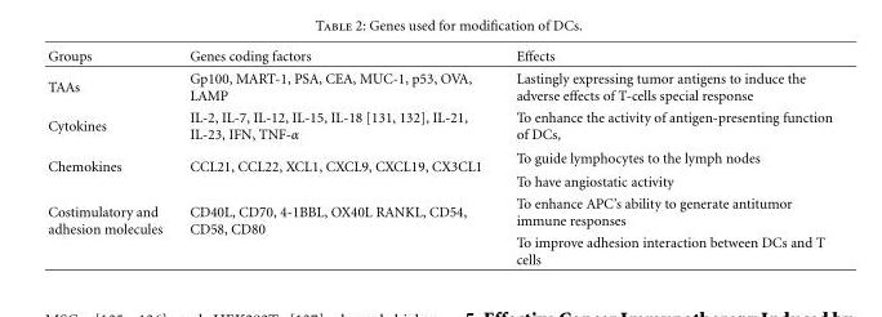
<table><thead><tr><td>Groups</td><td>Genes coding factors</td><td>Effects</td></tr></thead><tbody><tr><td>TAAs</td><td>Gp100, MART-1, PSA, CEA, MUC-1, p53, OVA, LAMP</td><td>Lastingly expressing tumor antigens to induce the adverse effects of T-cells special response</td></tr><tr><td>Cytokines</td><td>IL-2, IL-7, IL-12, IL-15, IL-18 [131, 132], IL-21, IL-23, IFN, TNF-α</td><td>To enhance the activity of antigen-presenting function of DCs,</td></tr><tr><td rowspan="2">Chemokines</td><td rowspan="2">CCL21, CCL22, XCL1, CXCL9, CXCL19, CX3CL1</td><td>To guide lymphocytes to the lymph nodes</td></tr><tr><td>To have angiostatic activity</td></tr><tr><td rowspan="2">Costimulatory and adhesion molecules</td><td rowspan="2">CD40L, CD70, 4-1BBL, OX40L RANKL, CD54, CD58, CD80</td><td>To enhance APC’s ability to generate antitumor immune responses</td></tr><tr><td>To improve adhesion interaction between DCs and T cells</td></tr></tbody></table>